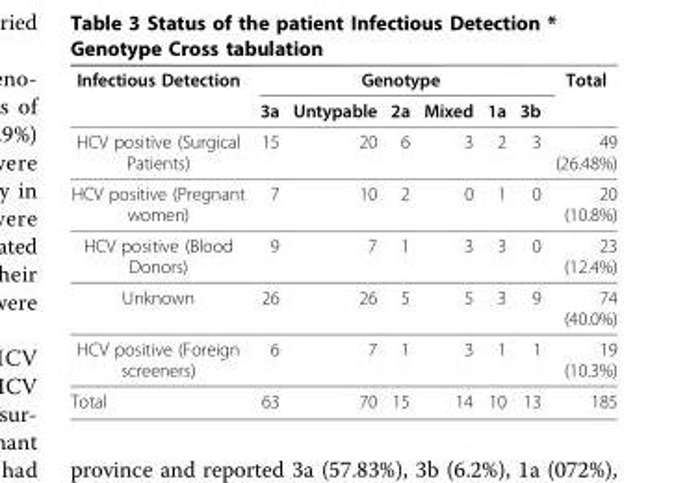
<table><thead><tr><td rowspan="2">Infectious Detection</td><td colspan="6">Genotype</td><td rowspan="2">Total</td></tr><tr><td>3a</td><td>Untypable</td><td>2a</td><td>Mixed</td><td>1a</td><td>3b</td></tr></thead><tbody><tr><td>HCV positive (Surgical Patients)</td><td>15</td><td>20</td><td>6</td><td>3</td><td>2</td><td>3</td><td>49 (26.48%)</td></tr><tr><td>HCV positive (Pregnant women)</td><td>7</td><td>10</td><td>2</td><td>0</td><td>1</td><td>0</td><td>20 (10.8%)</td></tr><tr><td>HCV positive (Blood Donors)</td><td>9</td><td>7</td><td>1</td><td>3</td><td>3</td><td>0</td><td>23 (12.4%)</td></tr><tr><td>Unknown</td><td>26</td><td>26</td><td>5</td><td>5</td><td>3</td><td>9</td><td>74 (40.0%)</td></tr><tr><td>HCV positive (Foreign screeners)</td><td>6</td><td>7</td><td>1</td><td>3</td><td>1</td><td>1</td><td>19 (10.3%)</td></tr><tr><td>Total</td><td>63</td><td>70</td><td>15</td><td>14</td><td>10</td><td>13</td><td>185</td></tr></tbody></table>